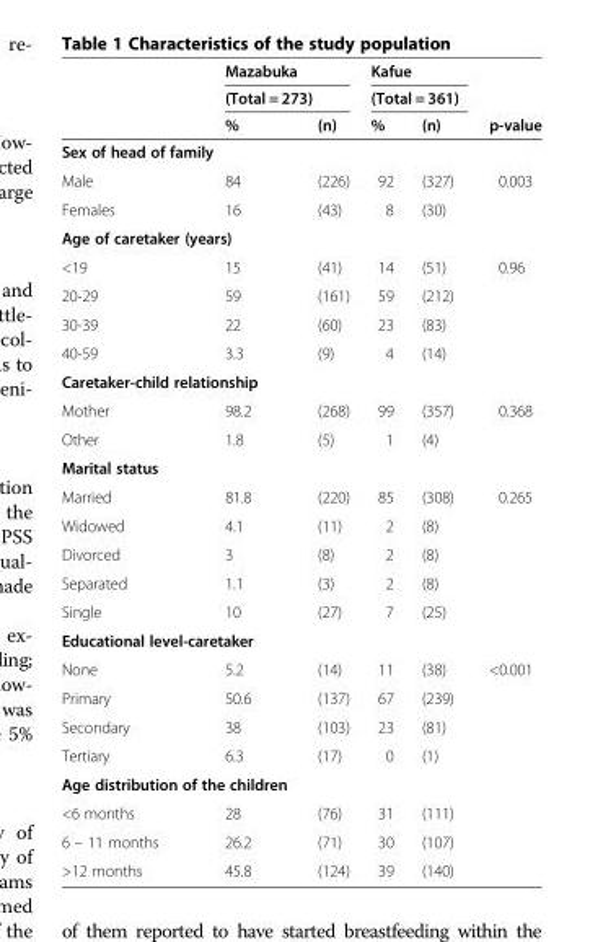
<table><thead><tr><td rowspan="3"></td><td rowspan="2" colspan="2">Mazabuka (Total = 273)</td><td rowspan="2" colspan="2">Kafue (Total = 361)</td><td rowspan="3">p-value</td></tr><tr></tr><tr><td>%</td><td>(n)</td><td>%</td><td>(n)</td></tr></thead><tbody><tr><td colspan="6">Sex of head of family</td></tr><tr><td>Male</td><td>84</td><td>(226)</td><td>92</td><td>(327)</td><td>0.003</td></tr><tr><td>Females</td><td>16</td><td>(43)</td><td>8</td><td>(30)</td><td></td></tr><tr><td colspan="6">Age of caretaker (years)</td></tr><tr><td>&lt;19</td><td>15</td><td>(41)</td><td>14</td><td>(51)</td><td>0.96</td></tr><tr><td>20-29</td><td>59</td><td>(161)</td><td>59</td><td>(212)</td><td></td></tr><tr><td>30-39</td><td>22</td><td>(60)</td><td>23</td><td>(83)</td><td></td></tr><tr><td>40-59</td><td>3.3</td><td>(9)</td><td>4</td><td>(14)</td><td></td></tr><tr><td colspan="6">Caretaker-child relationship</td></tr><tr><td>Mother</td><td>98.2</td><td>(268)</td><td>99</td><td>(357)</td><td>0.368</td></tr><tr><td>Other</td><td>1.8</td><td>(5)</td><td>1</td><td>(4)</td><td></td></tr><tr><td colspan="6">Marital status</td></tr><tr><td>Married</td><td>81.8</td><td>(220)</td><td>85</td><td>(308)</td><td>0.265</td></tr><tr><td>Widowed</td><td>4.1</td><td>(11)</td><td>2</td><td>(8)</td><td></td></tr><tr><td>Divorced</td><td>3</td><td>(8)</td><td>2</td><td>(8)</td><td></td></tr><tr><td>Separated</td><td>1.1</td><td>(3)</td><td>2</td><td>(8)</td><td></td></tr><tr><td>Single</td><td>10</td><td>(27)</td><td>7</td><td>(25)</td><td></td></tr><tr><td colspan="6">Educational level-caretaker</td></tr><tr><td>None</td><td>5.2</td><td>(14)</td><td>11</td><td>(38)</td><td>&lt;0.001</td></tr><tr><td>Primary</td><td>50.6</td><td>(137)</td><td>67</td><td>(239)</td><td></td></tr><tr><td>Secondary</td><td>38</td><td>(103)</td><td>23</td><td>(81)</td><td></td></tr><tr><td>Tertiary</td><td>6.3</td><td>(17)</td><td>0</td><td>(1)</td><td></td></tr><tr><td colspan="6">Age distribution of the children</td></tr><tr><td>&lt;6 months</td><td>28</td><td>(76)</td><td>31</td><td>(111)</td><td></td></tr><tr><td>6 – 11 months</td><td>26.2</td><td>(71)</td><td>30</td><td>(107)</td><td></td></tr><tr><td>&gt;12 months</td><td>45.8</td><td>(124)</td><td>39</td><td>(140)</td><td></td></tr></tbody></table>